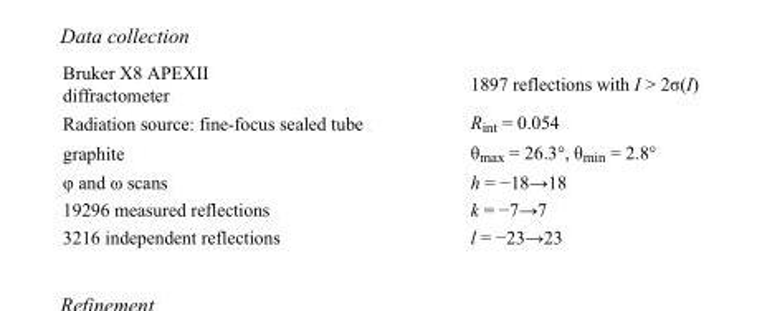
<table><tbody><tr><td>Bruker X8 APEXII diffractometer</td><td>1897 reflections with I &gt; 2σ(I)</td></tr><tr><td>Radiation source: fine-focus sealed tube</td><td>R<sub>int</sub> = 0.054</td></tr><tr><td>graphite</td><td>θ<sub>max</sub> = 26.3°, θ<sub>min</sub> = 2.8°</td></tr><tr><td>φ and ω scans</td><td>h = −18→18</td></tr><tr><td>19296 measured reflections</td><td>k = −7→7</td></tr><tr><td>3216 independent reflections</td><td>l = −23→23</td></tr></tbody></table>